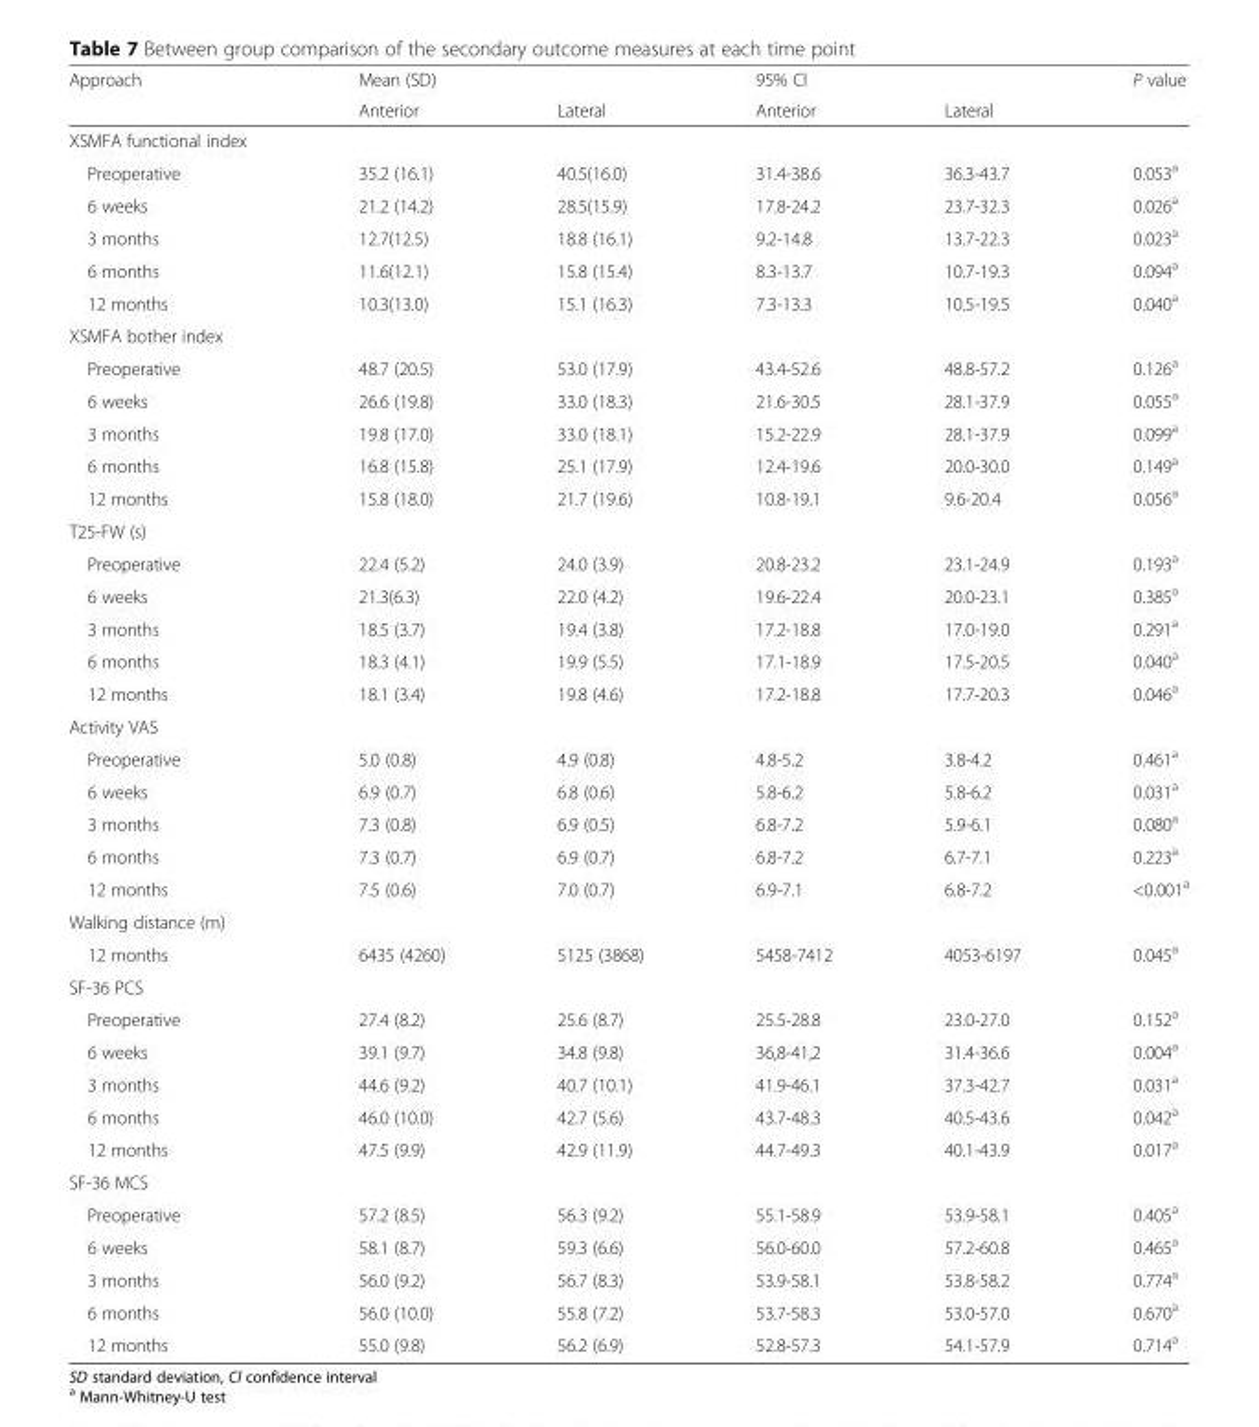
<table><thead><tr><td rowspan="2">Approach</td><td rowspan="2">Mean (SD) Anterior</td><td rowspan="2">Lateral</td><td rowspan="2">95% Cl Anterior</td><td rowspan="2">Lateral</td><td rowspan="2">P value</td></tr><tr></tr></thead><tbody><tr><td colspan="6">XSMFA functional index</td></tr><tr><td>Preoperative</td><td>35.2 (16.1)</td><td>40.5(16.0)</td><td>31.4-38.6</td><td>36.3-43.7</td><td>0.053<sup>a</sup></td></tr><tr><td>6 weeks</td><td>21.2 (14.2)</td><td>28.5(15.9)</td><td>17.8-24.2</td><td>23.7-32.3</td><td>0.026<sup>a</sup></td></tr><tr><td>3 months</td><td>12.7(12.5)</td><td>18.8 (16.1)</td><td>9.2-14.8</td><td>13.7-22.3</td><td>0.023<sup>a</sup></td></tr><tr><td>6 months</td><td>11.6(12.1)</td><td>15.8 (15.4)</td><td>8.3-13.7</td><td>10.7-19.3</td><td>0.094<sup>a</sup></td></tr><tr><td>12 months</td><td>10.3(13.0)</td><td>15.1 (16.3)</td><td>7.3-13.3</td><td>10.5-19.5</td><td>0.040<sup>a</sup></td></tr><tr><td colspan="6">XSMFA bother index</td></tr><tr><td>Preoperative</td><td>48.7 (20.5)</td><td>53.0 (17.9)</td><td>43.4-52.6</td><td>48.8-57.2</td><td>0.126<sup>a</sup></td></tr><tr><td>6 weeks</td><td>26.6 (19.8)</td><td>33.0 (18.3)</td><td>21.6-30.5</td><td>28.1-37.9</td><td>0.055<sup>a</sup></td></tr><tr><td>3 months</td><td>19.8 (17.0)</td><td>33.0 (18.1)</td><td>15.2-22.9</td><td>28.1-37.9</td><td>0.099<sup>a</sup></td></tr><tr><td>6 months</td><td>16.8 (15.8)</td><td>25.1 (17.9)</td><td>12.4-19.6</td><td>20.0-30.0</td><td>0.149<sup>a</sup></td></tr><tr><td>12 months</td><td>15.8 (18.0)</td><td>21.7 (19.6)</td><td>10.8-19.1</td><td>9.6-20.4</td><td>0.056<sup>a</sup></td></tr><tr><td colspan="6">T25-FW (s)</td></tr><tr><td>Preoperative</td><td>22.4 (5.2)</td><td>24.0 (3.9)</td><td>20.8-23.2</td><td>23.1-24.9</td><td>0.193<sup>a</sup></td></tr><tr><td>6 weeks</td><td>21.3(6.3)</td><td>22.0 (4.2)</td><td>19.6-22.4</td><td>20.0-23.1</td><td>0.385<sup>a</sup></td></tr><tr><td>3 months</td><td>18.5 (3.7)</td><td>19.4 (3.8)</td><td>17.2-18.8</td><td>17.0-19.0</td><td>0.291<sup>a</sup></td></tr><tr><td>6 months</td><td>18.3 (4.1)</td><td>19.9 (5.5)</td><td>17.1-18.9</td><td>17.5-20.5</td><td>0.040<sup>a</sup></td></tr><tr><td>12 months</td><td>18.1 (3.4)</td><td>19.8 (4.6)</td><td>17.2-18.8</td><td>17.7-20.3</td><td>0.046<sup>a</sup></td></tr><tr><td colspan="6">Activity VAS</td></tr><tr><td>Preoperative</td><td>5.0 (0.8)</td><td>4.9 (0.8)</td><td>4.8-5.2</td><td>3.8-4.2</td><td>0.461<sup>a</sup></td></tr><tr><td>6 weeks</td><td>6.9 (0.7)</td><td>6.8 (0.6)</td><td>5.8-6.2</td><td>5.8-6.2</td><td>0.031<sup>a</sup></td></tr><tr><td>3 months</td><td>7.3 (0.8)</td><td>6.9 (0.5)</td><td>6.8-7.2</td><td>5.9-6.1</td><td>0.080<sup>a</sup></td></tr><tr><td>6 months</td><td>7.3 (0.7)</td><td>6.9 (0.7)</td><td>6.8-7.2</td><td>6.7-7.1</td><td>0.223<sup>a</sup></td></tr><tr><td>12 months</td><td>7.5 (0.6)</td><td>7.0 (0.7)</td><td>6.9-7.1</td><td>6.8-7.2</td><td>&lt;0.001<sup>a</sup></td></tr><tr><td colspan="6">Walking distance (m)</td></tr><tr><td>12 months</td><td>6435 (4260)</td><td>5125 (3868)</td><td>5458-7412</td><td>4053-6197</td><td>0.045<sup>a</sup></td></tr><tr><td colspan="6">SF-36 PCS</td></tr><tr><td>Preoperative</td><td>27.4 (8.2)</td><td>25.6 (8.7)</td><td>25.5-28.8</td><td>23.0-27.0</td><td>0.152<sup>a</sup></td></tr><tr><td>6 weeks</td><td>39.1 (9.7)</td><td>34.8 (9.8)</td><td>36,8-41,2</td><td>31.4-36.6</td><td>0.004<sup>a</sup></td></tr><tr><td>3 months</td><td>44.6 (9.2)</td><td>40.7 (10.1)</td><td>41.9-46.1</td><td>37.3-42.7</td><td>0.031<sup>a</sup></td></tr><tr><td>6 months</td><td>46.0 (10.0)</td><td>42.7 (5.6)</td><td>43.7-48.3</td><td>40.5-43.6</td><td>0.042<sup>a</sup></td></tr><tr><td>12 months</td><td>47.5 (9.9)</td><td>42.9 (11.9)</td><td>44.7-49.3</td><td>40.1-43.9</td><td>0.017<sup>a</sup></td></tr><tr><td colspan="6">SF-36 MCS</td></tr><tr><td>Preoperative</td><td>57.2 (8.5)</td><td>56.3 (9.2)</td><td>55.1-58.9</td><td>53.9-58.1</td><td>0.405<sup>a</sup></td></tr><tr><td>6 weeks</td><td>58.1 (8.7)</td><td>59.3 (6.6)</td><td>56.0-60.0</td><td>57.2-60.8</td><td>0.465<sup>a</sup></td></tr><tr><td>3 months</td><td>56.0 (9.2)</td><td>56.7 (8.3)</td><td>53.9-58.1</td><td>53.8-58.2</td><td>0.774<sup>a</sup></td></tr><tr><td>6 months</td><td>56.0 (10.0)</td><td>55.8 (7.2)</td><td>53.7-58.3</td><td>53.0-57.0</td><td>0.670<sup>a</sup></td></tr><tr><td>12 months</td><td>55.0 (9.8)</td><td>56.2 (6.9)</td><td>52.8-57.3</td><td>54.1-57.9</td><td>0.714<sup>a</sup></td></tr></tbody></table>